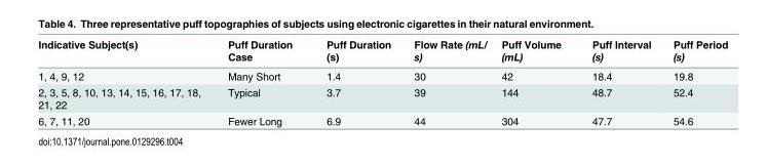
<table><thead><tr><td>Indicative Subject(s)</td><td>Puff Duration Case</td><td>Puff Duration (s)</td><td>Flow Rate (mL/ s)</td><td>Puff Volume (mL)</td><td>Puff Interval (s)</td><td>Puff Period (s)</td></tr></thead><tbody><tr><td>1, 4, 9, 12</td><td>Many Short</td><td>1.4</td><td>30</td><td>42</td><td>18.4</td><td>19.8</td></tr><tr><td>2, 3, 5, 8, 10, 13, 14, 15, 16, 17, 18, 21, 22</td><td>Typical</td><td>3.7</td><td>39</td><td>144</td><td>48.7</td><td>52.4</td></tr><tr><td>6, 7, 11, 20</td><td>Fewer Long</td><td>6.9</td><td>44</td><td>304</td><td>47.7</td><td>54.6</td></tr></tbody></table>